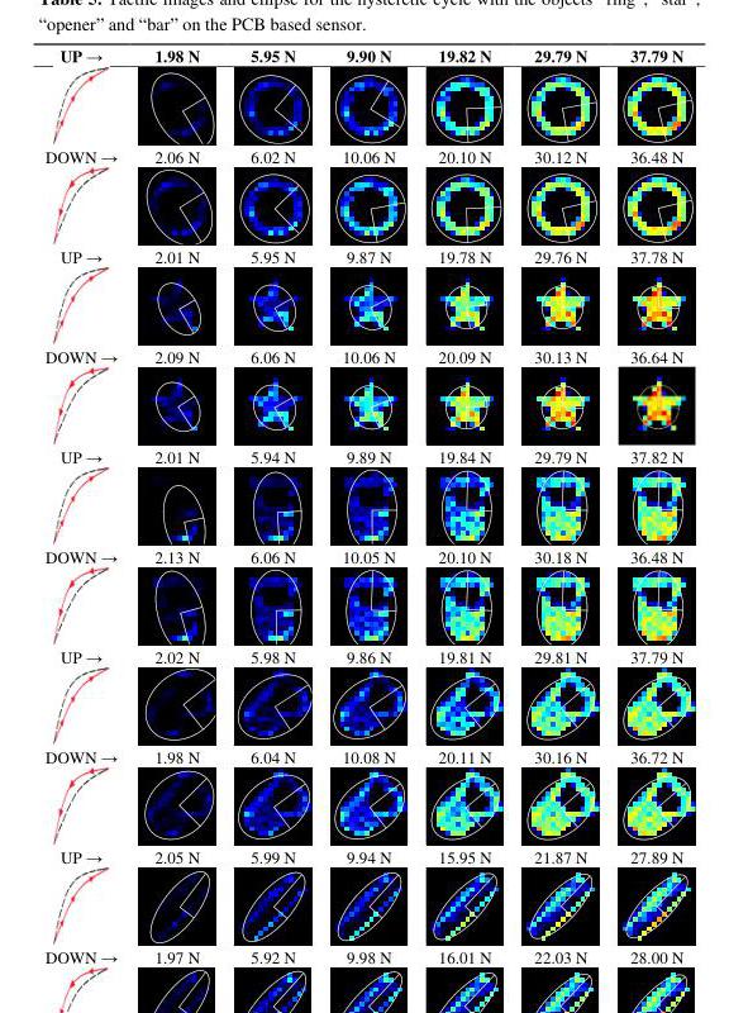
<table><thead><tr><td>UP →</td><td>1.98 N</td><td>5.95 N</td><td>9.90 N</td><td>19.82 N</td><td>29.79 N</td><td>37.79 N</td></tr></thead><tbody><tr><td>DOWN →</td><td>2.06 N</td><td>6.02 N</td><td>10.06 N</td><td>20.10 N</td><td>30.12 N</td><td>36.48 N</td></tr><tr><td>UP →</td><td>2.01 N</td><td>5.95 N</td><td>9.87 N</td><td>19.78 N</td><td>29.76 N</td><td>37.78 N</td></tr><tr><td>DOWN →</td><td>2.09 N</td><td>6.06 N</td><td>10.06 N</td><td>20.09 N</td><td>30.13 N</td><td>36.64 N</td></tr><tr><td>UP →</td><td>2.01 N</td><td>5.94 N</td><td>9.89 N</td><td>19.84 N</td><td>29.79 N</td><td>37.82 N</td></tr><tr><td>DOWN →</td><td>2.13 N</td><td>6.06 N</td><td>10.05 N</td><td>20.10 N</td><td>30.18 N</td><td>36.48 N</td></tr><tr><td>UP →</td><td>2.02 N</td><td>5.98 N</td><td>9.86 N</td><td>19.81 N</td><td>29.81 N</td><td>37.79 N</td></tr><tr><td>DOWN →</td><td>1.98 N</td><td>6.04 N</td><td>10.08 N</td><td>20.11 N</td><td>30.16 N</td><td>36.72 N</td></tr><tr><td>UP →</td><td>2.05 N</td><td>5.99 N</td><td>9.94 N</td><td>15.95 N</td><td>21.87 N</td><td>27.89 N</td></tr><tr><td>DOWN →</td><td>1.97 N</td><td>5.92 N</td><td>9.98 N</td><td>16.01 N</td><td>22.03 N</td><td>28.00 N</td></tr></tbody></table>